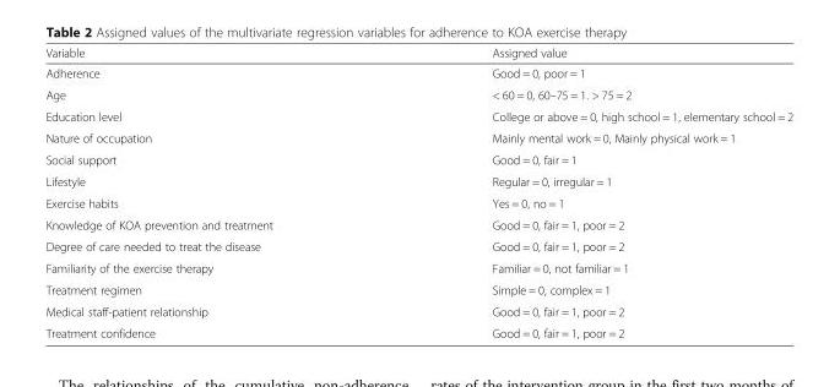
<table><thead><tr><td>Variable</td><td>Assigned value</td></tr></thead><tbody><tr><td>Adherence</td><td>Good = 0, poor = 1</td></tr><tr><td>Age</td><td>&lt; 60 = 0, 60–75 = 1. &gt; 75 = 2</td></tr><tr><td>Education level</td><td>College or above = 0, high school = 1, elementary school = 2</td></tr><tr><td>Nature of occupation</td><td>Mainly mental work = 0, Mainly physical work = 1</td></tr><tr><td>Social support</td><td>Good = 0, fair = 1</td></tr><tr><td>Lifestyle</td><td>Regular = 0, irregular = 1</td></tr><tr><td>Exercise habits</td><td>Yes = 0, no = 1</td></tr><tr><td>Knowledge of KOA prevention and treatment</td><td>Good = 0, fair = 1, poor = 2</td></tr><tr><td>Degree of care needed to treat the disease</td><td>Good = 0, fair = 1, poor = 2</td></tr><tr><td>Familiarity of the exercise therapy</td><td>Familiar = 0, not familiar = 1</td></tr><tr><td>Treatment regimen</td><td>Simple = 0, complex = 1</td></tr><tr><td>Medical staff-patient relationship</td><td>Good = 0, fair = 1, poor = 2</td></tr><tr><td>Treatment confidence</td><td>Good = 0, fair = 1, poor = 2</td></tr></tbody></table>